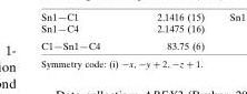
<table><tbody><tr><td>C1—Sn1—C4</td><td>83.75 (6)</td></tr></tbody></table>